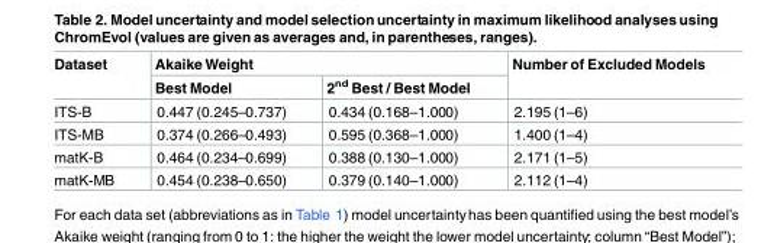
<table><thead><tr><td rowspan="2">Dataset</td><td colspan="2">Akaike Weight</td><td rowspan="2">Number of Excluded Models</td></tr><tr><td>Best Model</td><td>2<sup>nd</sup> Best / Best Model</td></tr></thead><tbody><tr><td>ITS-B</td><td>0.447 (0.245–0.737)</td><td>0.434 (0.168–1.000)</td><td>2.195 (1–6)</td></tr><tr><td>ITS-MB</td><td>0.374 (0.266–0.493)</td><td>0.595 (0.368–1.000)</td><td>1.400 (1–4)</td></tr><tr><td>matK-B</td><td>0.464 (0.234–0.699)</td><td>0.388 (0.130–1.000)</td><td>2.171 (1–5)</td></tr><tr><td>matK-MB</td><td>0.454 (0.238–0.650)</td><td>0.379 (0.140–1.000)</td><td>2.112 (1–4)</td></tr></tbody></table>